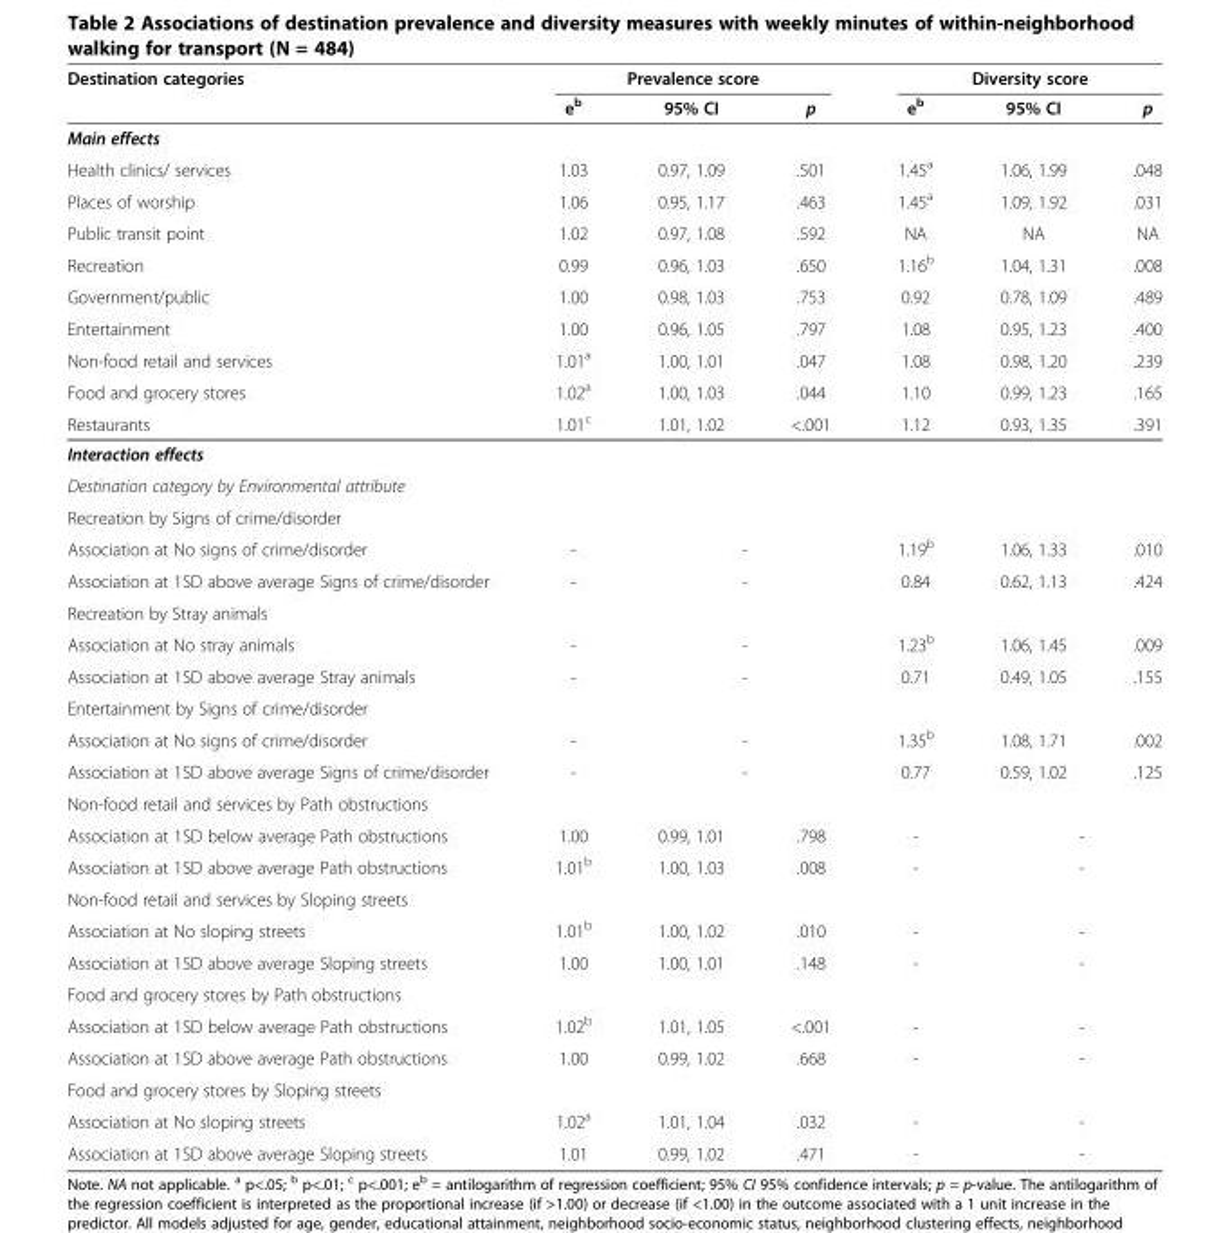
<table><thead><tr><td rowspan="2">Destination categories</td><td colspan="3">Prevalence score</td><td colspan="3">Diversity score</td></tr><tr><td>e<sup>b</sup></td><td>95% CI</td><td>p</td><td>e<sup>b</sup></td><td>95% CI</td><td>p</td></tr></thead><tbody><tr><td colspan="7">Main effects</td></tr><tr><td>Health clinics/ services</td><td>1.03</td><td>0.97, 1.09</td><td>.501</td><td>1.45<sup>a</sup></td><td>1.06, 1.99</td><td>.048</td></tr><tr><td>Places of worship</td><td>1.06</td><td>0.95, 1.17</td><td>.463</td><td>1.45<sup>a</sup></td><td>1.09, 1.92</td><td>.031</td></tr><tr><td>Public transit point</td><td>1.02</td><td>0.97, 1.08</td><td>.592</td><td>NA</td><td>NA</td><td>NA</td></tr><tr><td>Recreation</td><td>0.99</td><td>0.96, 1.03</td><td>.650</td><td>1.16<sup>b</sup></td><td>1.04, 1.31</td><td>.008</td></tr><tr><td>Government/public</td><td>1.00</td><td>0.98, 1.03</td><td>.753</td><td>0.92</td><td>0.78, 1.09</td><td>.489</td></tr><tr><td>Entertainment</td><td>1.00</td><td>0.96, 1.05</td><td>.797</td><td>1.08</td><td>0.95, 1.23</td><td>.400</td></tr><tr><td>Non-food retail and services</td><td>1.01<sup>a</sup></td><td>1.00, 1.01</td><td>.047</td><td>1.08</td><td>0.98, 1.20</td><td>.239</td></tr><tr><td>Food and grocery stores</td><td>1.02<sup>a</sup></td><td>1.00, 1.03</td><td>.044</td><td>1.10</td><td>0.99, 1.23</td><td>.165</td></tr><tr><td>Restaurants</td><td>1.01<sup>c</sup></td><td>1.01, 1.02</td><td>&lt;.001</td><td>1.12</td><td>0.93, 1.35</td><td>.391</td></tr><tr><td colspan="7">Interaction effects</td></tr><tr><td colspan="7">Destination category by Environmental attribute</td></tr><tr><td colspan="7">Recreation by Signs of crime/disorder</td></tr><tr><td>Association at No signs of crime/disorder</td><td>-</td><td colspan="2">-</td><td>1.19<sup>b</sup></td><td>1.06, 1.33</td><td>.010</td></tr><tr><td>Association at 1SD above average Signs of crime/disorder</td><td>-</td><td colspan="2">-</td><td>0.84</td><td>0.62, 1.13</td><td>.424</td></tr><tr><td colspan="7">Recreation by Stray animals</td></tr><tr><td>Association at No stray animals</td><td>-</td><td colspan="2">-</td><td>1.23<sup>b</sup></td><td>1.06, 1.45</td><td>.009</td></tr><tr><td>Association at 1SD above average Stray animals</td><td>-</td><td colspan="2">-</td><td>0.71</td><td>0.49, 1.05</td><td>.155</td></tr><tr><td colspan="7">Entertainment by Signs of crime/disorder</td></tr><tr><td>Association at No signs of crime/disorder</td><td>-</td><td colspan="2">-</td><td>1.35<sup>b</sup></td><td>1.08, 1.71</td><td>.002</td></tr><tr><td>Association at 1SD above average Signs of crime/disorder</td><td>-</td><td colspan="2">-</td><td>0.77</td><td>0.59, 1.02</td><td>.125</td></tr><tr><td colspan="7">Non-food retail and services by Path obstructions</td></tr><tr><td>Association at 1SD below average Path obstructions</td><td>1.00</td><td>0.99, 1.01</td><td>.798</td><td>-</td><td colspan="2">-</td></tr><tr><td>Association at 1SD above average Path obstructions</td><td>1.01<sup>b</sup></td><td>1.00, 1.03</td><td>.008</td><td>-</td><td colspan="2">-</td></tr><tr><td colspan="7">Non-food retail and services by Sloping streets</td></tr><tr><td>Association at No sloping streets</td><td>1.01<sup>b</sup></td><td>1.00, 1.02</td><td>.010</td><td>-</td><td colspan="2">-</td></tr><tr><td>Association at 1SD above average Sloping streets</td><td>1.00</td><td>1.00, 1.01</td><td>.148</td><td>-</td><td colspan="2">-</td></tr><tr><td colspan="7">Food and grocery stores by Path obstructions</td></tr><tr><td>Association at 1SD below average Path obstructions</td><td>1.02<sup>b</sup></td><td>1.01, 1.05</td><td>&lt;.001</td><td>-</td><td colspan="2">-</td></tr><tr><td>Association at 1SD above average Path obstructions</td><td>1.00</td><td>0.99, 1.02</td><td>.668</td><td>-</td><td colspan="2">-</td></tr><tr><td colspan="7">Food and grocery stores by Sloping streets</td></tr><tr><td>Association at No sloping streets</td><td>1.02<sup>a</sup></td><td>1.01, 1.04</td><td>.032</td><td>-</td><td colspan="2">-</td></tr><tr><td>Association at 1SD above average Sloping streets</td><td>1.01</td><td>0.99, 1.02</td><td>.471</td><td>-</td><td colspan="2">-</td></tr></tbody></table>